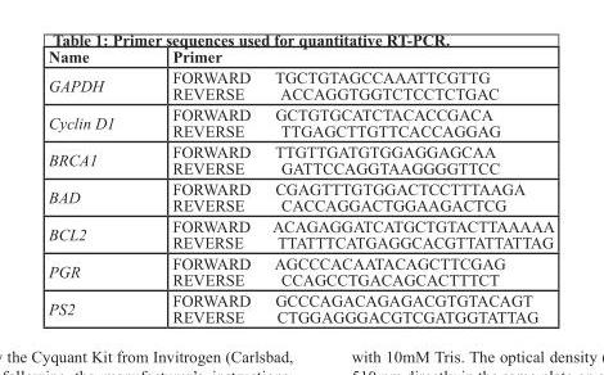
<table><thead><tr><td>Name</td><td>Primer</td></tr></thead><tbody><tr><td>GAPDH</td><td>FORWARD TGCTGTAGCCAAATTCGTTG REVERSE ACCAGGTGGTCTCCTCTGAC</td></tr><tr><td>Cyclin D1</td><td>FORWARD GCTGTGCATCTACACCGACA REVERSE TTGAGCTTGTTCACCAGGAG</td></tr><tr><td>BRCA1</td><td>FORWARD TTGTTGATGTGGAGGAGCAA REVERSE GATTCCAGGTAAGGGGTTCC</td></tr><tr><td>BAD</td><td>FORWARD CGAGTTTGTGGACTCCTTTAAGA REVERSE CACCAGGACTGGAAGACTCG</td></tr><tr><td>BCL2</td><td>FORWARD ACAGAGGATCATGCTGTACTTAAAAA REVERSE TTATTTCATGAGGCACGTTATTATTAG</td></tr><tr><td>PGR</td><td>FORWARD AGCCCACAATACAGCTTCGAG REVERSE CCAGCCTGACAGCACTTTCT</td></tr><tr><td>PS2</td><td>FORWARD GCCCAGACAGAGACGTGTACAGT REVERSE CTGGAGGGACGTCGATGGTATTAG</td></tr></tbody></table>